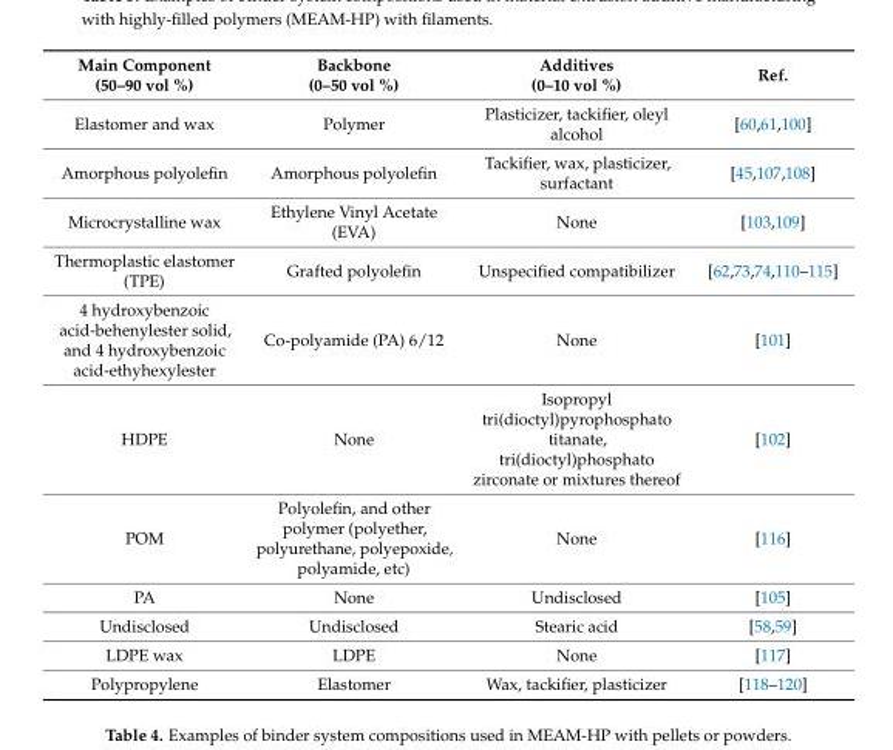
<table><thead><tr><td>Main Component (50–90 vol %)</td><td>Backbone (0–50 vol %)</td><td>Additives (0–10 vol %)</td><td>Ref.</td></tr></thead><tbody><tr><td>Elastomer and wax</td><td>Polymer</td><td>Plasticizer, tackifier, oleyl alcohol</td><td>[60,61,100]</td></tr><tr><td>Amorphous polyolefin</td><td>Amorphous polyolefin</td><td>Tackifier, wax, plasticizer, surfactant</td><td>[45,107,108]</td></tr><tr><td>Microcrystalline wax</td><td>Ethylene Vinyl Acetate (EVA)</td><td>None</td><td>[103,109]</td></tr><tr><td>Thermoplastic elastomer (TPE)</td><td>Grafted polyolefin</td><td>Unspecified compatibilizer</td><td>[62,73,74,110–115]</td></tr><tr><td>4 hydroxybenzoic acid-behenylester solid, and 4 hydroxybenzoic acid-ethyhexylester</td><td>Co-polyamide (PA) 6/12</td><td>None</td><td>[101]</td></tr><tr><td>HDPE</td><td>None</td><td>Isopropyl tri(dioctyl)pyrophosphato titanate, tri(dioctyl)phosphato zirconate or mixtures thereof</td><td>[102]</td></tr><tr><td>POM</td><td>Polyolefin, and other polymer (polyether, polyurethane, polyepoxide, polyamide, etc)</td><td>None</td><td>[116]</td></tr><tr><td>PA</td><td>None</td><td>Undisclosed</td><td>[105]</td></tr><tr><td>Undisclosed</td><td>Undisclosed</td><td>Stearic acid</td><td>[58,59]</td></tr><tr><td>LDPE wax</td><td>LDPE</td><td>None</td><td>[117]</td></tr><tr><td>Polypropylene</td><td>Elastomer</td><td>Wax, tackifier, plasticizer</td><td>[118–120]</td></tr></tbody></table>